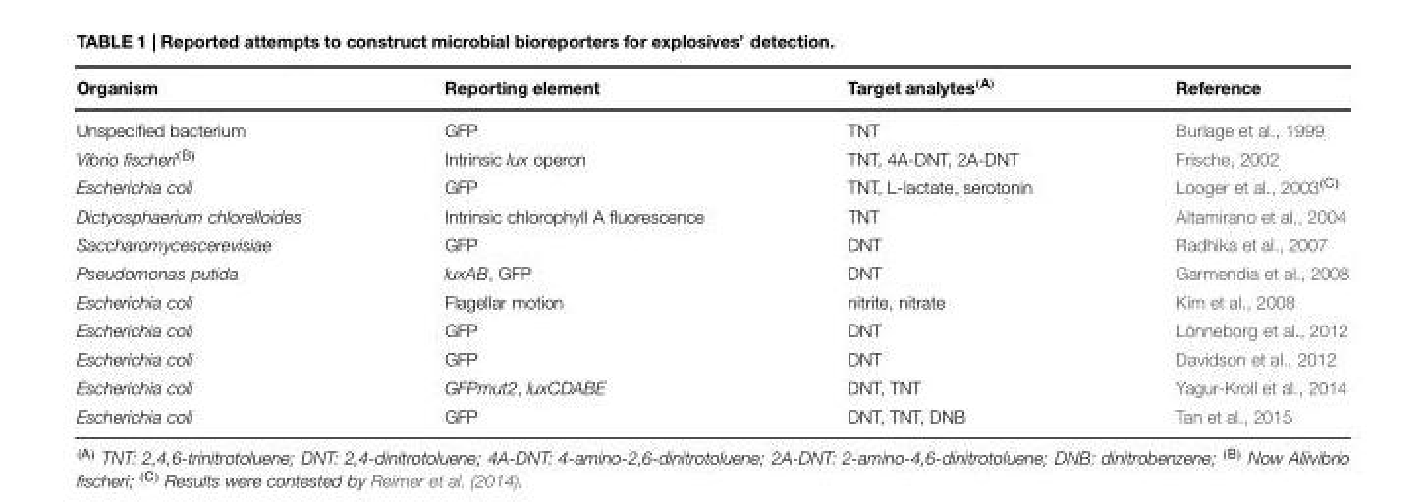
<table><thead><tr><td>Organism</td><td>Reporting element</td><td>Target analytes<sup>(A)</sup></td><td>Reference</td></tr></thead><tbody><tr><td>Unspecified bacterium</td><td>GFP</td><td>TNT</td><td>Burlage et al., 1999</td></tr><tr><td>Vibrio fischeri<sup>(B)</sup></td><td>Intrinsic lux operon</td><td>TNT, 4A-DNT, 2A-DNT</td><td>Frische, 2002</td></tr><tr><td>Escherichia coli</td><td>GFP</td><td>TNT, L-lactate, serotonin</td><td>Looger et al., 2003<sup>(C)</sup></td></tr><tr><td>Dictyosphaerium chlorelloides</td><td>Intrinsic chlorophyll A fluorescence</td><td>TNT</td><td>Altamirano et al., 2004</td></tr><tr><td>Saccharomycescerevisiae</td><td>GFP</td><td>DNT</td><td>Radhika et al., 2007</td></tr><tr><td>Pseudomonas putida</td><td>luxAB, GFP</td><td>DNT</td><td>Garmendia et al., 2008</td></tr><tr><td>Escherichia coli</td><td>Flagellar motion</td><td>nitrite, nitrate</td><td>Kim et al., 2008</td></tr><tr><td>Escherichia coli</td><td>GFP</td><td>DNT</td><td>Lönneborg et al., 2012</td></tr><tr><td>Escherichia coli</td><td>GFP</td><td>DNT</td><td>Davidson et al., 2012</td></tr><tr><td>Escherichia coli</td><td>GFPmut2, luxCDABE</td><td>DNT, TNT</td><td>Yagur-Kroll et al., 2014</td></tr><tr><td>Escherichia coli</td><td>GFP</td><td>DNT, TNT, DNB</td><td>Tan et al., 2015</td></tr></tbody></table>